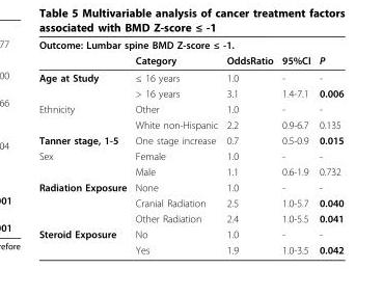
<table><thead><tr><td colspan="5">Outcome: Lumbar spine BMD Z-score ≤ -1.</td></tr><tr><td></td><td>Category</td><td>OddsRatio</td><td>95%CI</td><td>P</td></tr></thead><tbody><tr><td rowspan="2">Age at Study</td><td>≤ 16 years</td><td>1.0</td><td>-</td><td>-</td></tr><tr><td>&gt; 16 years</td><td>3.1</td><td>1.4-7.1</td><td>0.006</td></tr><tr><td rowspan="2">Ethnicity</td><td>Other</td><td>1.0</td><td>-</td><td>-</td></tr><tr><td>White non-Hispanic</td><td>2.2</td><td>0.9-6.7</td><td>0.135</td></tr><tr><td>Tanner stage, 1-5</td><td>One stage increase</td><td>0.7</td><td>0.5-0.9</td><td>0.015</td></tr><tr><td rowspan="2">Sex</td><td>Female</td><td>1.0</td><td>-</td><td>-</td></tr><tr><td>Male</td><td>1.1</td><td>0.6-1.9</td><td>0.732</td></tr><tr><td rowspan="3">Radiation Exposure</td><td>None</td><td>1.0</td><td>-</td><td>-</td></tr><tr><td>Cranial Radiation</td><td>2.5</td><td>1.0-5.7</td><td>0.040</td></tr><tr><td>Other Radiation</td><td>2.4</td><td>1.0-5.5</td><td>0.041</td></tr><tr><td rowspan="2">Steroid Exposure</td><td>No</td><td>1.0</td><td>-</td><td>-</td></tr><tr><td>Yes</td><td>1.9</td><td>1.0-3.5</td><td>0.042</td></tr></tbody></table>